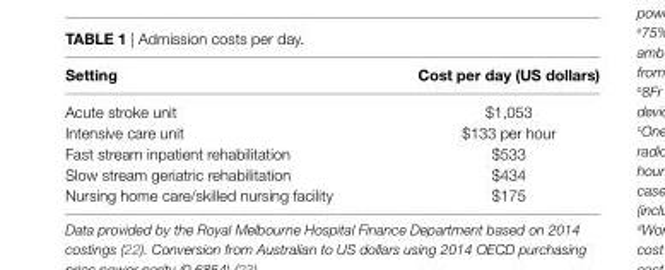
<table><thead><tr><td>setting</td><td>cost per day (Us dollars)</td></tr></thead><tbody><tr><td>Acute stroke unit</td><td>$1,053</td></tr><tr><td>Intensive care unit</td><td>$133 per hour</td></tr><tr><td>Fast stream inpatient rehabilitation</td><td>$533</td></tr><tr><td>Slow stream geriatric rehabilitation</td><td>$434</td></tr><tr><td>Nursing home care/skilled nursing facility</td><td>$175</td></tr></tbody></table>